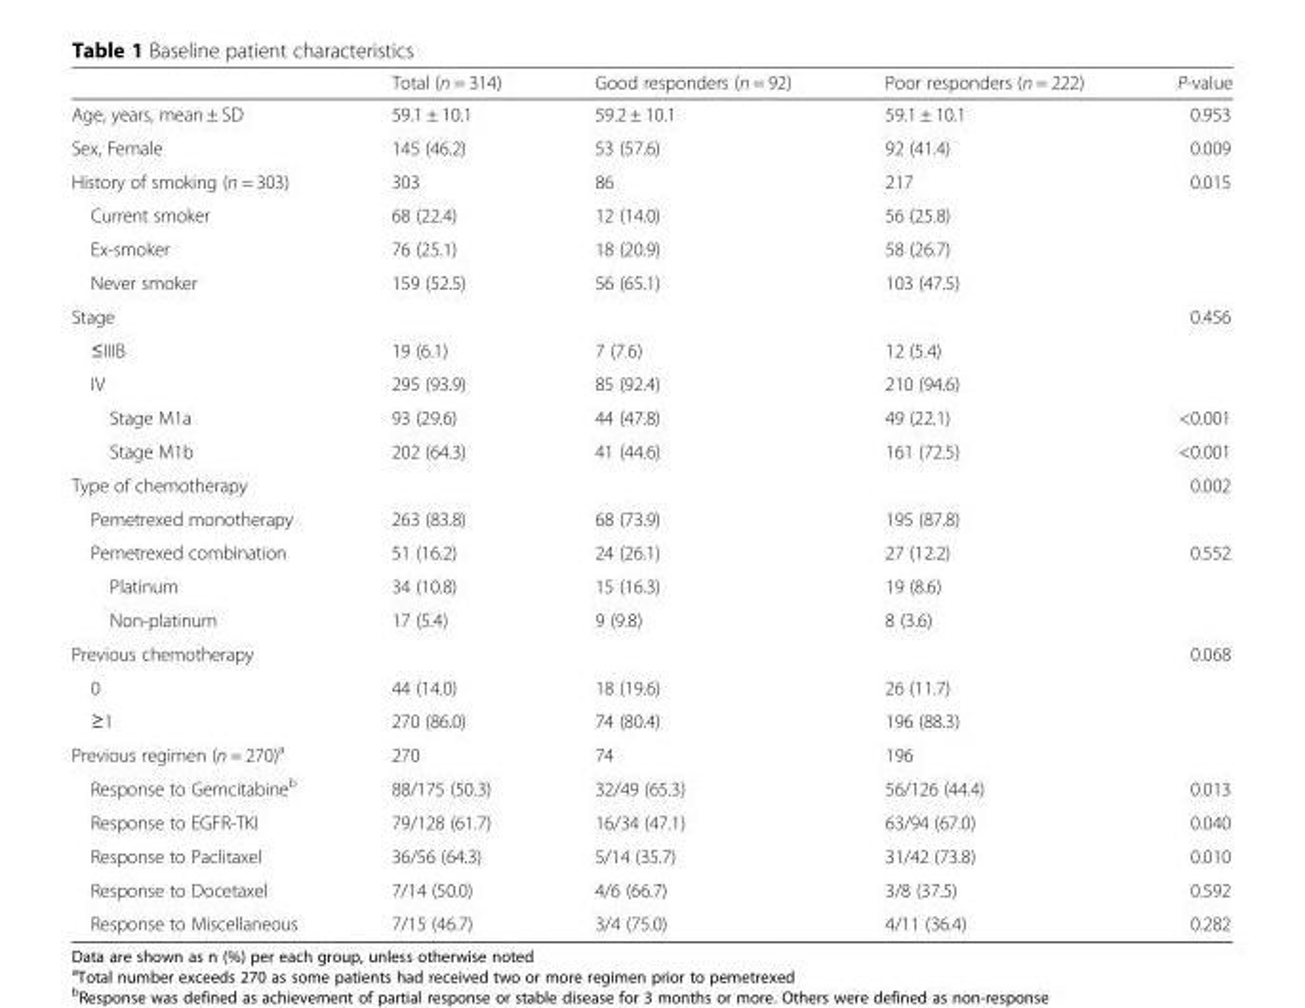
<table><thead><tr><td></td><td>Total (n = 314)</td><td>Good responders (n = 92)</td><td>Poor responders (n = 222)</td><td>P-value</td></tr></thead><tbody><tr><td>Age, years, mean ± SD</td><td>59.1 ± 10.1</td><td>59.2 ± 10.1</td><td>59.1 ± 10.1</td><td>0.953</td></tr><tr><td>Sex, Female</td><td>145 (46.2)</td><td>53 (57.6)</td><td>92 (41.4)</td><td>0.009</td></tr><tr><td>History of smoking (n = 303)</td><td>303</td><td>86</td><td>217</td><td>0.015</td></tr><tr><td>Current smoker</td><td>68 (22.4)</td><td>12 (14.0)</td><td>56 (25.8)</td><td rowspan="2"></td></tr><tr><td>Ex-smoker</td><td>76 (25.1)</td><td>18 (20.9)</td><td>58 (26.7)</td></tr><tr><td>Never smoker</td><td>159 (52.5)</td><td>56 (65.1)</td><td>103 (47.5)</td><td></td></tr><tr><td>Stage</td><td></td><td></td><td></td><td>0.456</td></tr><tr><td>≤IIIB</td><td>19 (6.1)</td><td>7 (7.6)</td><td>12 (5.4)</td><td></td></tr><tr><td>IV</td><td>295 (93.9)</td><td>85 (92.4)</td><td>210 (94.6)</td><td></td></tr><tr><td>Stage M1a</td><td>93 (29.6)</td><td>44 (47.8)</td><td>49 (22.1)</td><td>&lt;0.001</td></tr><tr><td>Stage M1b</td><td>202 (64.3)</td><td>41 (44.6)</td><td>161 (72.5)</td><td>&lt;0.001</td></tr><tr><td>Type of chemotherapy</td><td></td><td></td><td></td><td>0.002</td></tr><tr><td>Pemetrexed monotherapy</td><td>263 (83.8)</td><td>68 (73.9)</td><td>195 (87.8)</td><td></td></tr><tr><td>Pemetrexed combination</td><td>51 (16.2)</td><td>24 (26.1)</td><td>27 (12.2)</td><td>0.552</td></tr><tr><td>Platinum</td><td>34 (10.8)</td><td>15 (16.3)</td><td>19 (8.6)</td><td></td></tr><tr><td>Non-platinum</td><td>17 (5.4)</td><td>9 (9.8)</td><td>8 (3.6)</td><td></td></tr><tr><td>Previous chemotherapy</td><td></td><td></td><td></td><td>0.068</td></tr><tr><td>0</td><td>44 (14.0)</td><td>18 (19.6)</td><td>26 (11.7)</td><td></td></tr><tr><td>≥1</td><td>270 (86.0)</td><td>74 (80.4)</td><td>196 (88.3)</td><td></td></tr><tr><td>Previous regimen (n = 270)<sup>a</sup></td><td>270</td><td>74</td><td>196</td><td></td></tr><tr><td>Response to Gemcitabine<sup>b</sup></td><td>88/175 (50.3)</td><td>32/49 (65.3)</td><td>56/126 (44.4)</td><td>0.013</td></tr><tr><td>Response to EGFR-TKI</td><td>79/128 (61.7)</td><td>16/34 (47.1)</td><td>63/94 (67.0)</td><td>0.040</td></tr><tr><td>Response to Paclitaxel</td><td>36/56 (64.3)</td><td>5/14 (35.7)</td><td>31/42 (73.8)</td><td>0.010</td></tr><tr><td>Response to Docetaxel</td><td>7/14 (50.0)</td><td>4/6 (66.7)</td><td>3/8 (37.5)</td><td>0.592</td></tr><tr><td>Response to Miscellaneous</td><td>7/15 (46.7)</td><td>3/4 (75.0)</td><td>4/11 (36.4)</td><td>0.282</td></tr></tbody></table>